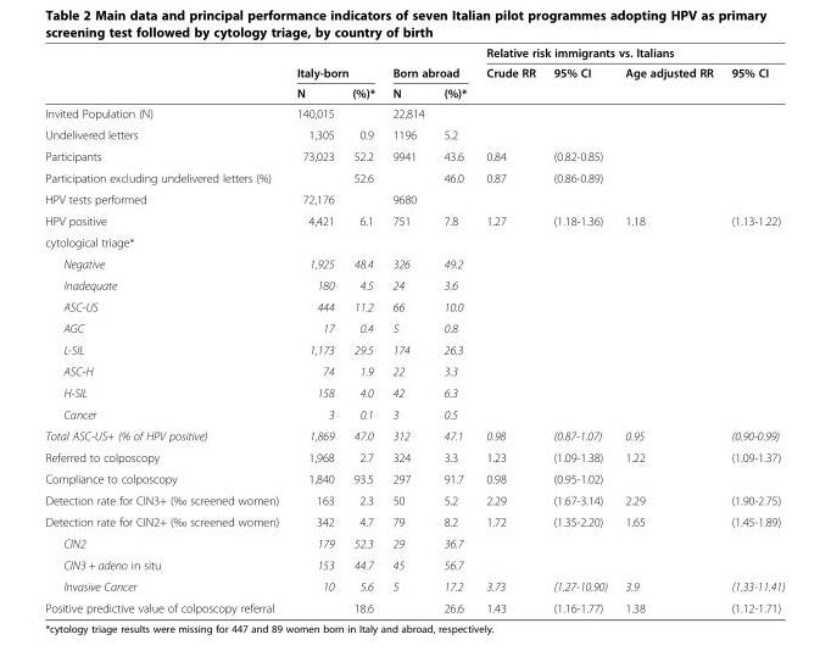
<table><thead><tr><td rowspan="3"></td><td></td><td></td><td></td><td></td><td colspan="4">Relative risk immigrants vs. Italians</td></tr><tr><td colspan="2">Italy-born</td><td colspan="2">Born abroad</td><td rowspan="2">Crude RR</td><td rowspan="2">95% CI</td><td rowspan="2">Age adjusted RR</td><td rowspan="2">95% CI</td></tr><tr><td>N</td><td>(%)*</td><td>N</td><td>(%)*</td></tr></thead><tbody><tr><td>Invited Population (N)</td><td>140,015</td><td></td><td>22,814</td><td></td><td></td><td></td><td></td><td></td></tr><tr><td>Undelivered letters</td><td>1,305</td><td>0.9</td><td>1196</td><td>5.2</td><td></td><td></td><td></td><td></td></tr><tr><td>Participants</td><td>73,023</td><td>52.2</td><td>9941</td><td>43.6</td><td>0.84</td><td>(0.82-0.85)</td><td></td><td></td></tr><tr><td>Participation excluding undelivered letters (%)</td><td></td><td>52.6</td><td></td><td>46.0</td><td>0.87</td><td>(0.86-0.89)</td><td></td><td></td></tr><tr><td>HPV tests performed</td><td>72,176</td><td></td><td>9680</td><td></td><td></td><td></td><td></td><td></td></tr><tr><td>HPV positive</td><td>4,421</td><td>6.1</td><td>751</td><td>7.8</td><td>1.27</td><td>(1.18-1.36)</td><td>1.18</td><td>(1.13-1.22)</td></tr><tr><td colspan="9">cytological triage*</td></tr><tr><td>Negative</td><td>1,925</td><td>48.4</td><td>326</td><td>49.2</td><td></td><td></td><td></td><td></td></tr><tr><td>Inadequate</td><td>180</td><td>4.5</td><td>24</td><td>3.6</td><td></td><td></td><td></td><td></td></tr><tr><td>ASC-US</td><td>444</td><td>11.2</td><td>66</td><td>10.0</td><td></td><td></td><td></td><td></td></tr><tr><td>AGC</td><td>17</td><td>0.4</td><td>5</td><td>0.8</td><td></td><td></td><td></td><td></td></tr><tr><td>L-SIL</td><td>1,173</td><td>29.5</td><td>174</td><td>26.3</td><td></td><td></td><td></td><td></td></tr><tr><td>ASC-H</td><td>74</td><td>1.9</td><td>22</td><td>3.3</td><td></td><td></td><td></td><td></td></tr><tr><td>H-SIL</td><td>158</td><td>4.0</td><td>42</td><td>6.3</td><td></td><td></td><td></td><td></td></tr><tr><td>Cancer</td><td>3</td><td>0.1</td><td>3</td><td>0.5</td><td></td><td></td><td></td><td></td></tr><tr><td>Total ASC-US+ (% of HPV positive)</td><td>1,869</td><td>47.0</td><td>312</td><td>47.1</td><td>0.98</td><td>(0.87-1.07)</td><td>0.95</td><td>(0.90-0.99)</td></tr><tr><td>Referred to colposcopy</td><td>1,968</td><td>2.7</td><td>324</td><td>3.3</td><td>1.23</td><td>(1.09-1.38)</td><td>1.22</td><td>(1.09-1.37)</td></tr><tr><td>Compliance to colposcopy</td><td>1,840</td><td>93.5</td><td>297</td><td>91.7</td><td>0.98</td><td>(0.95-1.02)</td><td></td><td></td></tr><tr><td>Detection rate for CIN3+ (‰ screened women)</td><td>163</td><td>2.3</td><td>50</td><td>5.2</td><td>2.29</td><td>(1.67-3.14)</td><td>2.29</td><td>(1.90-2.75)</td></tr><tr><td>Detection rate for CIN2+ (‰ screened women)</td><td>342</td><td>4.7</td><td>79</td><td>8.2</td><td>1.72</td><td>(1.35-2.20)</td><td>1.65</td><td>(1.45-1.89)</td></tr><tr><td>CIN2</td><td>179</td><td>52.3</td><td>29</td><td>36.7</td><td></td><td></td><td></td><td></td></tr><tr><td>CIN3 + adeno in situ</td><td>153</td><td>44.7</td><td>45</td><td>56.7</td><td></td><td></td><td></td><td></td></tr><tr><td>Invasive Cancer</td><td>10</td><td>5.6</td><td>5</td><td>17.2</td><td>3.73</td><td>(1.27-10.90)</td><td>3.9</td><td>(1.33-11.41)</td></tr><tr><td>Positive predictive value of colposcopy referral</td><td></td><td>18.6</td><td></td><td>26.6</td><td>1.43</td><td>(1.16-1.77)</td><td>1.38</td><td>(1.12-1.71)</td></tr></tbody></table>